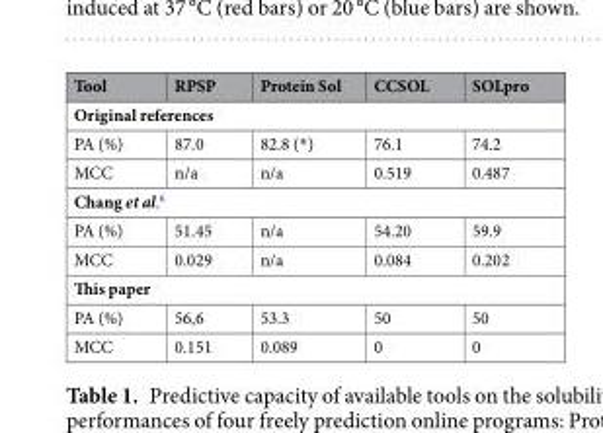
<table><thead><tr><td>Tool</td><td>RPSP</td><td>Protein Sol</td><td>CCSOL</td><td>SOLpro</td></tr></thead><tbody><tr><td colspan="5">Original references</td></tr><tr><td>PA (%)</td><td>87.0</td><td>82.8 (*)</td><td>76.1</td><td>74.2</td></tr><tr><td>MCC</td><td>n/a</td><td>n/a</td><td>0.519</td><td>0.487</td></tr><tr><td colspan="5">Chang et al.<sup>6</sup></td></tr><tr><td>PA (%)</td><td>51.45</td><td>n/a</td><td>54.20</td><td>59.9</td></tr><tr><td>MCC</td><td>0.029</td><td>n/a</td><td>0.084</td><td>0.202</td></tr><tr><td colspan="5">This paper</td></tr><tr><td>PA (%)</td><td>56,6</td><td>53.3</td><td>50</td><td>50</td></tr><tr><td>MCC</td><td>0.151</td><td>0.089</td><td>0</td><td>0</td></tr></tbody></table>